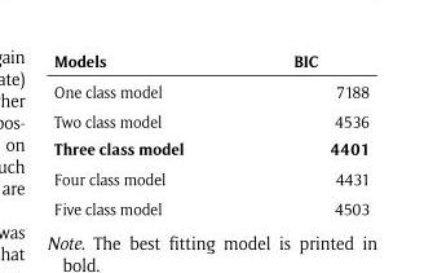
<table><thead><tr><td>Models</td><td>BIC</td></tr></thead><tbody><tr><td>One class model</td><td>7188</td></tr><tr><td>Two class model</td><td>4536</td></tr><tr><td>Three class model</td><td>4401</td></tr><tr><td>Four class model</td><td>4431</td></tr><tr><td>Five class model</td><td>4503</td></tr></tbody></table>